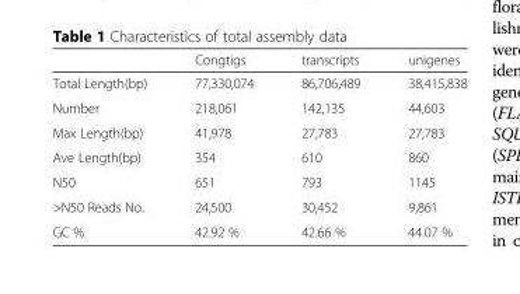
<table><thead><tr><td></td><td>Congtigs</td><td>transcripts</td><td>unigenes</td></tr></thead><tbody><tr><td>Total Length(bp)</td><td>77,330,074</td><td>86,706,489</td><td>38,415,838</td></tr><tr><td>Number</td><td>218,061</td><td>142,135</td><td>44,603</td></tr><tr><td>Max Length(bp)</td><td>41,978</td><td>27,783</td><td>27,783</td></tr><tr><td>Ave Length(bp)</td><td>354</td><td>610</td><td>860</td></tr><tr><td>N50</td><td>651</td><td>793</td><td>1145</td></tr><tr><td>&gt;N50 Reads No.</td><td>24,500</td><td>30,452</td><td>9,861</td></tr><tr><td>GC %</td><td>42.92 %</td><td>42.66 %</td><td>44.07 %</td></tr></tbody></table>